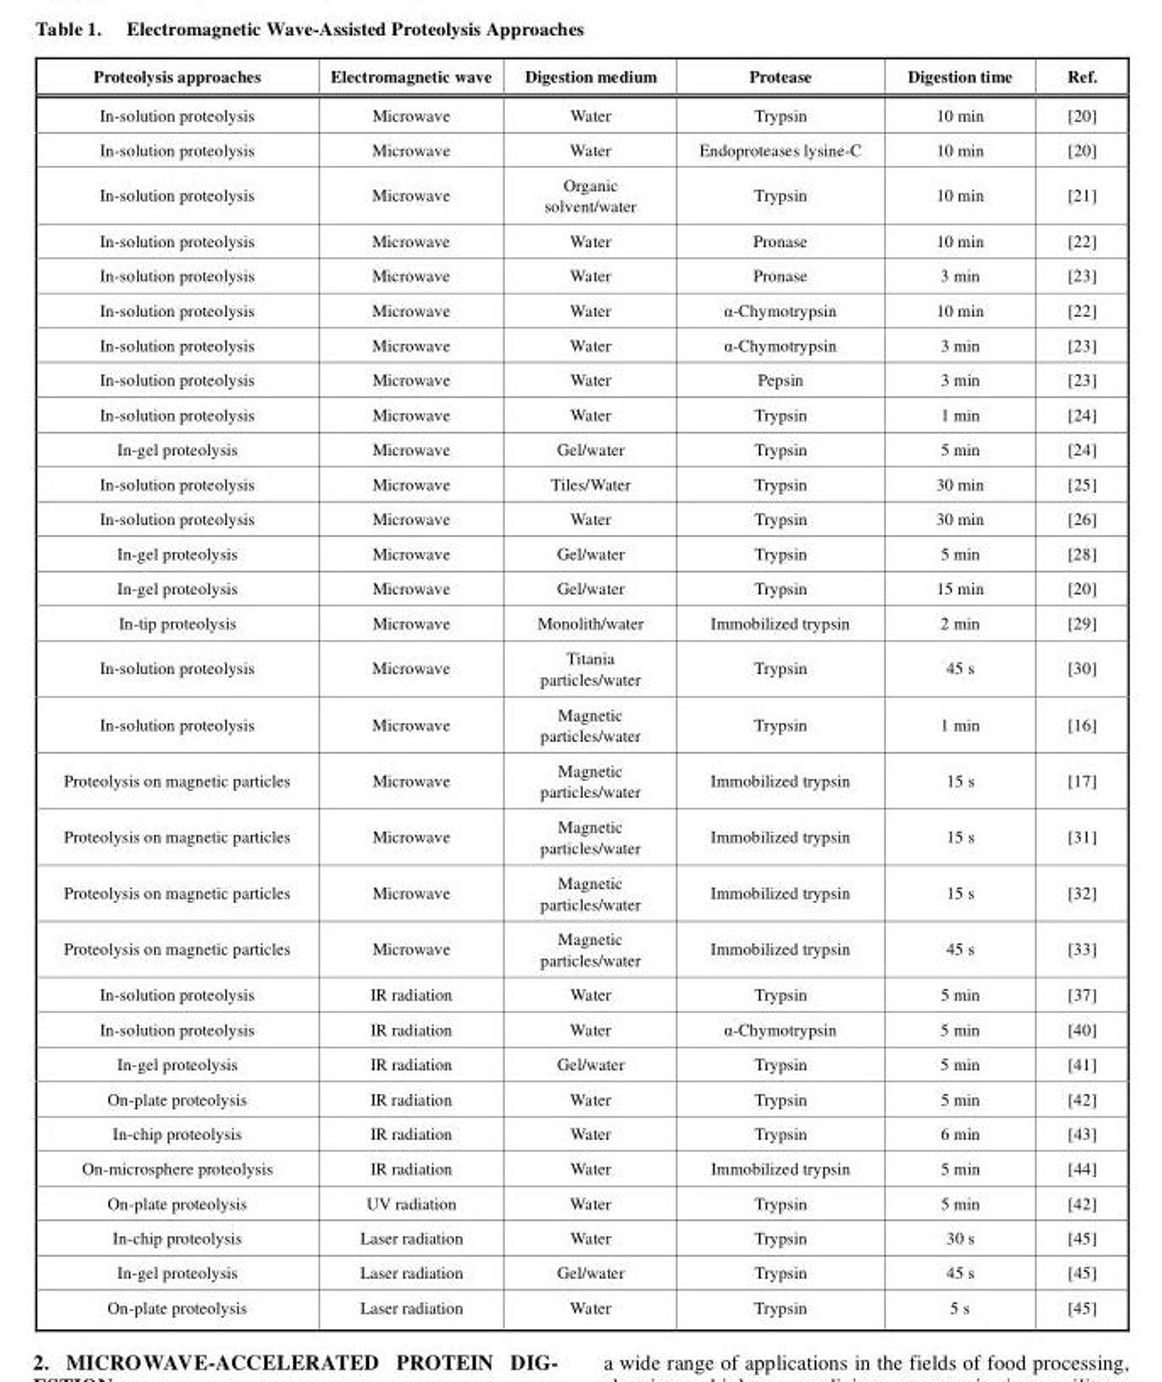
<table><thead><tr><td>Proteolysis approaches</td><td>Electromagnetic wave</td><td>Digestion medium</td><td>Protease</td><td>Digestion time</td><td>Ref.</td></tr></thead><tbody><tr><td>In-solution proteolysis</td><td>Microwave</td><td>Water</td><td>Trypsin</td><td>10 min</td><td>[20]</td></tr><tr><td>In-solution proteolysis</td><td>Microwave</td><td>Water</td><td>Endoproteases lysine-C</td><td>10 min</td><td>[20]</td></tr><tr><td>In-solution proteolysis</td><td>Microwave</td><td>Organic solvent/water</td><td>Trypsin</td><td>10 min</td><td>[21]</td></tr><tr><td>In-solution proteolysis</td><td>Microwave</td><td>Water</td><td>Pronase</td><td>10 min</td><td>[22]</td></tr><tr><td>In-solution proteolysis</td><td>Microwave</td><td>Water</td><td>Pronase</td><td>3 min</td><td>[23]</td></tr><tr><td>In-solution proteolysis</td><td>Microwave</td><td>Water</td><td>α-Chymotrypsin</td><td>10 min</td><td>[22]</td></tr><tr><td>In-solution proteolysis</td><td>Microwave</td><td>Water</td><td>α-Chymotrypsin</td><td>3 min</td><td>[23]</td></tr><tr><td>In-solution proteolysis</td><td>Microwave</td><td>Water</td><td>Pepsin</td><td>3 min</td><td>[23]</td></tr><tr><td>In-solution proteolysis</td><td>Microwave</td><td>Water</td><td>Trypsin</td><td>1 min</td><td>[24]</td></tr><tr><td>In-gel proteolysis</td><td>Microwave</td><td>Gel/water</td><td>Trypsin</td><td>5 min</td><td>[24]</td></tr><tr><td>In-solution proteolysis</td><td>Microwave</td><td>Tiles/Water</td><td>Trypsin</td><td>30 min</td><td>[25]</td></tr><tr><td>In-solution proteolysis</td><td>Microwave</td><td>Water</td><td>Trypsin</td><td>30 min</td><td>[26]</td></tr><tr><td>In-gel proteolysis</td><td>Microwave</td><td>Gel/water</td><td>Trypsin</td><td>5 min</td><td>[28]</td></tr><tr><td>In-gel proteolysis</td><td>Microwave</td><td>Gel/water</td><td>Trypsin</td><td>15 min</td><td>[20]</td></tr><tr><td>In-tip proteolysis</td><td>Microwave</td><td>Monolith/water</td><td>Immobilized trypsin</td><td>2 min</td><td>[29]</td></tr><tr><td>In-solution proteolysis</td><td>Microwave</td><td>Titania particles/water</td><td>Trypsin</td><td>45 s</td><td>[30]</td></tr><tr><td>In-solution proteolysis</td><td>Microwave</td><td>Magnetic particles/water</td><td>Trypsin</td><td>1 min</td><td>[16]</td></tr><tr><td>Proteolysis on magnetic particles</td><td>Microwave</td><td>Magnetic particles/water</td><td>Immobilized trypsin</td><td>15 s</td><td>[17]</td></tr><tr><td>Proteolysis on magnetic particles</td><td>Microwave</td><td>Magnetic particles/water</td><td>Immobilized trypsin</td><td>15 s</td><td>[31]</td></tr><tr><td>Proteolysis on magnetic particles</td><td>Microwave</td><td>Magnetic particles/water</td><td>Immobilized trypsin</td><td>15 s</td><td>[32]</td></tr><tr><td>Proteolysis on magnetic particles</td><td>Microwave</td><td>Magnetic particles/water</td><td>Immobilized trypsin</td><td>45 s</td><td>[33]</td></tr><tr><td>In-solution proteolysis</td><td>IR radiation</td><td>Water</td><td>Trypsin</td><td>5 min</td><td>[37]</td></tr><tr><td>In-solution proteolysis</td><td>IR radiation</td><td>Water</td><td>α-Chymotrypsin</td><td>5 min</td><td>[40]</td></tr><tr><td>In-gel proteolysis</td><td>IR radiation</td><td>Gel/water</td><td>Trypsin</td><td>5 min</td><td>[41]</td></tr><tr><td>On-plate proteolysis</td><td>IR radiation</td><td>Water</td><td>Trypsin</td><td>5 min</td><td>[42]</td></tr><tr><td>In-chip proteolysis</td><td>IR radiation</td><td>Water</td><td>Trypsin</td><td>6 min</td><td>[43]</td></tr><tr><td>On-microsphere proteolysis</td><td>IR radiation</td><td>Water</td><td>Immobilized trypsin</td><td>5 min</td><td>[44]</td></tr><tr><td>On-plate proteolysis</td><td>UV radiation</td><td>Water</td><td>Trypsin</td><td>5 min</td><td>[42]</td></tr><tr><td>In-chip proteolysis</td><td>Laser radiation</td><td>Water</td><td>Trypsin</td><td>30 s</td><td>[45]</td></tr><tr><td>In-gel proteolysis</td><td>Laser radiation</td><td>Gel/water</td><td>Trypsin</td><td>45 s</td><td>[45]</td></tr><tr><td>On-plate proteolysis</td><td>Laser radiation</td><td>Water</td><td>Trypsin</td><td>5 s</td><td>[45]</td></tr></tbody></table>